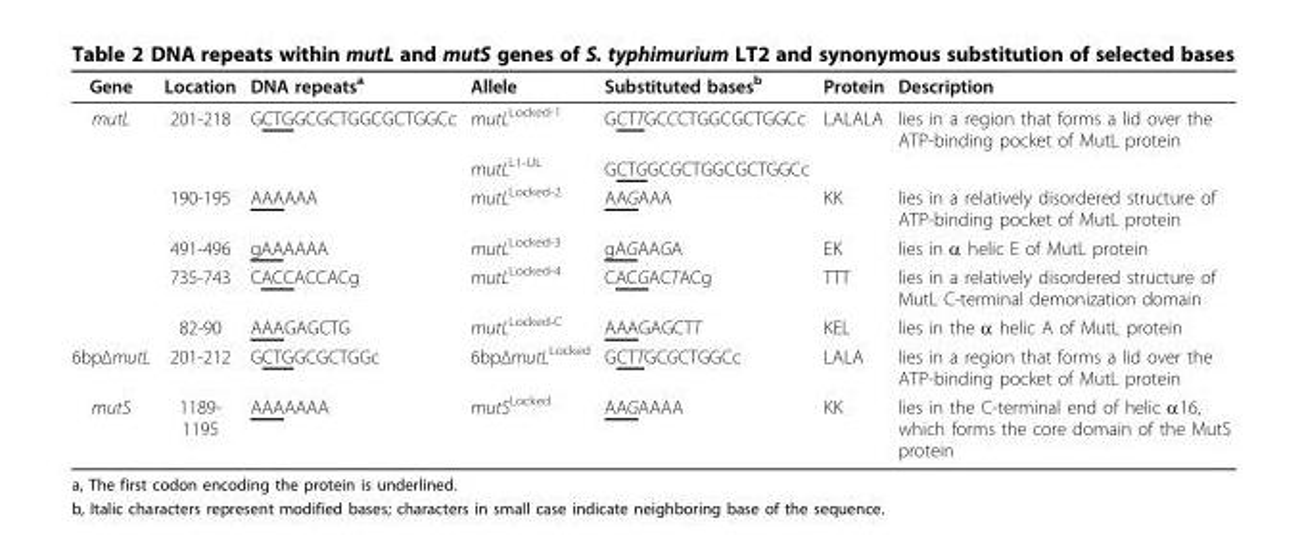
<table><thead><tr><td>Gene</td><td>Location</td><td>DNA repeats<sup>a</sup></td><td>Allele</td><td>Substituted bases<sup>b</sup></td><td>Protein</td><td>Description</td></tr></thead><tbody><tr><td rowspan="6">mutL</td><td>201-218</td><td>GCTGGCGCTGGCGCTGGCc</td><td>mutL<sup>Locked-1</sup></td><td>GCTTGCCCTGGCGCTGGCc</td><td>LALALA</td><td>lies in a region that forms a lid over the ATP-binding pocket of MutL protein</td></tr><tr><td></td><td></td><td>mutL<sup>L1-UL</sup></td><td>GCTGGCGCTGGCGCTGGCc</td><td></td><td></td></tr><tr><td>190-195</td><td>AAAAAA</td><td>mutL<sup>Locked-2</sup></td><td>AAGAAA</td><td>KK</td><td>lies in a relatively disordered structure of ATP-binding pocket of MutL protein</td></tr><tr><td>491-496</td><td>gAAAAAA</td><td>mutL<sup>Locked-3</sup></td><td>gAGAAGA</td><td>EK</td><td>lies in α helic E of MutL protein</td></tr><tr><td>735-743</td><td>CACCACCACg</td><td>mutL<sup>Locked-4</sup></td><td>CACGACTACg</td><td>TTT</td><td>lies in a relatively disordered structure of MutL C-terminal demonization domain</td></tr><tr><td>82-90</td><td>AAAGAGCTG</td><td>mutL<sup>Locked-C</sup></td><td>AAAGAGCTT</td><td>KEL</td><td>lies in the α helic A of MutL protein</td></tr><tr><td>6bpΔmutL</td><td>201-212</td><td>GCTGGCGCTGGc</td><td>6bpΔmutL<sup>Locked</sup></td><td>GCTTGCGCTGGCc</td><td>LALA</td><td>lies in a region that forms a lid over the ATP-binding pocket of MutL protein</td></tr><tr><td>mutS</td><td>1189- 1195</td><td>AAAAAAA</td><td>mutS<sup>Locked</sup></td><td>AAGAAAA</td><td>KK</td><td>lies in the C-terminal end of helic α16, which forms the core domain of the MutS protein</td></tr></tbody></table>